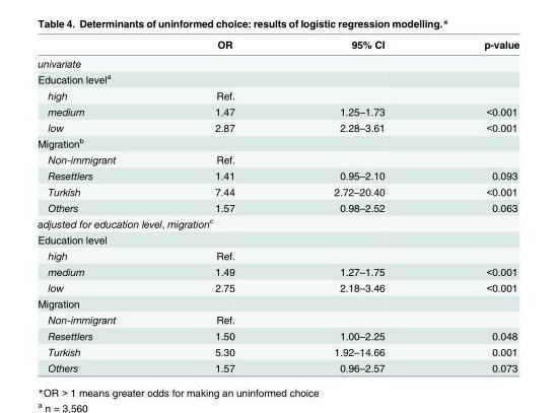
<table><thead><tr><td></td><td>OR</td><td>95% CI</td><td>p-value</td></tr></thead><tbody><tr><td colspan="4">univariate</td></tr><tr><td colspan="4">Education level<sup>a</sup></td></tr><tr><td>high</td><td>Ref.</td><td></td><td></td></tr><tr><td>medium</td><td>1.47</td><td>1.25–1.73</td><td>&lt;0.001</td></tr><tr><td>low</td><td>2.87</td><td>2.28–3.61</td><td>&lt;0.001</td></tr><tr><td colspan="4">Migration<sup>b</sup></td></tr><tr><td>Non-immigrant</td><td>Ref.</td><td></td><td></td></tr><tr><td>Resettlers</td><td>1.41</td><td>0.95–2.10</td><td>0.093</td></tr><tr><td>Turkish</td><td>7.44</td><td>2.72–20.40</td><td>&lt;0.001</td></tr><tr><td>Others</td><td>1.57</td><td>0.98–2.52</td><td>0.063</td></tr><tr><td colspan="4">adjusted for education level, migration<sup>c</sup></td></tr><tr><td colspan="4">Education level</td></tr><tr><td>high</td><td>Ref.</td><td></td><td></td></tr><tr><td>medium</td><td>1.49</td><td>1.27–1.75</td><td>&lt;0.001</td></tr><tr><td>low</td><td>2.75</td><td>2.18–3.46</td><td>&lt;0.001</td></tr><tr><td colspan="4">Migration</td></tr><tr><td>Non-immigrant</td><td>Ref.</td><td></td><td></td></tr><tr><td>Resettlers</td><td>1.50</td><td>1.00–2.25</td><td>0.048</td></tr><tr><td>Turkish</td><td>5.30</td><td>1.92–14.66</td><td>0.001</td></tr><tr><td>Others</td><td>1.57</td><td>0.96–2.57</td><td>0.073</td></tr></tbody></table>